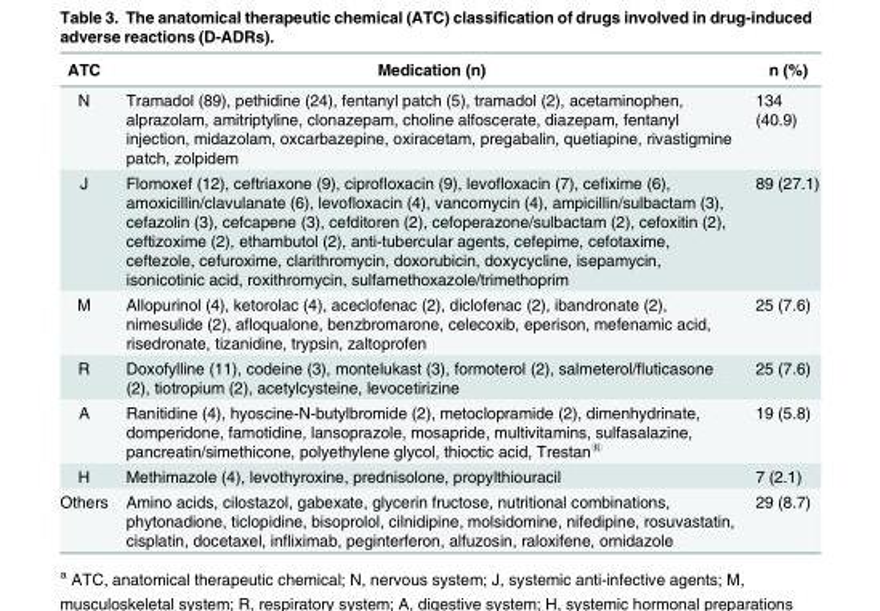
<table><thead><tr><td>ATC</td><td>Medication (n)</td><td>n (%)</td></tr></thead><tbody><tr><td>N</td><td>Tramadol (89), pethidine (24), fentanyl patch (5), tramadol (2), acetaminophen, alprazolam, amitriptyline, clonazepam, choline alfoscerate, diazepam, fentanyl injection, midazolam, oxcarbazepine, oxiracetam, pregabalin, quetiapine, rivastigmine patch, zolpidem</td><td>134 (40.9)</td></tr><tr><td>J</td><td>Flomoxef (12), ceftriaxone (9), ciprofloxacin (9), levofloxacin (7), cefixime (6), amoxicillin/clavulanate (6), levofloxacin (4), vancomycin (4), ampicillin/sulbactam (3), cefazolin (3), cefcapene (3), cefditoren (2), cefoperazone/sulbactam (2), cefoxitin (2), ceftizoxime (2), ethambutol (2), anti-tubercular agents, cefepime, cefotaxime, ceftezole, cefuroxime, clarithromycin, doxorubicin, doxycycline, isepamycin, isonicotinic acid, roxithromycin, sulfamethoxazole/trimethoprim</td><td>89 (27.1)</td></tr><tr><td>M</td><td>Allopurinol (4), ketorolac (4), aceclofenac (2), diclofenac (2), ibandronate (2), nimesulide (2), afloqualone, benzbromarone, celecoxib, eperison, mefenamic acid, risedronate, tizanidine, trypsin, zaltoprofen</td><td>25 (7.6)</td></tr><tr><td>R</td><td>Doxofylline (11), codeine (3), montelukast (3), formoterol (2), salmeterol/fluticasone (2), tiotropium (2), acetylcysteine, levocetirizine</td><td>25 (7.6)</td></tr><tr><td>A</td><td>Ranitidine (4), hyoscine-N-butylbromide (2), metoclopramide (2), dimenhydrinate, domperidone, famotidine, lansoprazole, mosapride, multivitamins, sulfasalazine, pancreatin/simethicone, polyethylene glycol, thioctic acid, Trestan<sup>®</sup></td><td>19 (5.8)</td></tr><tr><td>H</td><td>Methimazole (4), levothyroxine, prednisolone, propylthiouracil</td><td>7 (2.1)</td></tr><tr><td>Others</td><td>Amino acids, cilostazol, gabexate, glycerin fructose, nutritional combinations, phytonadione, ticlopidine, bisoprolol, cilnidipine, molsidomine, nifedipine, rosuvastatin, cisplatin, docetaxel, infliximab, peginterferon, alfuzosin, raloxifene, ornidazole</td><td>29 (8.7)</td></tr></tbody></table>